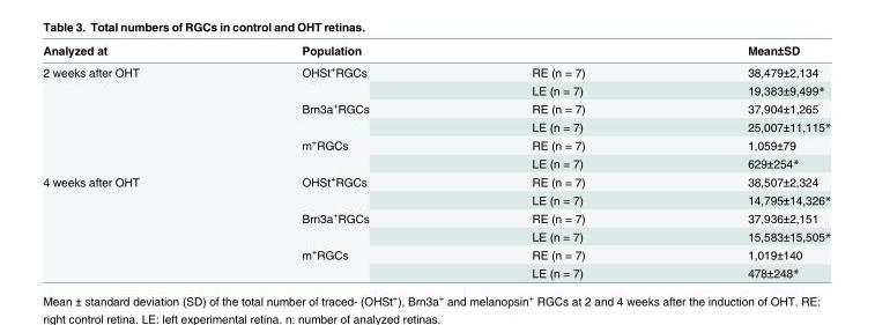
<table><thead><tr><td>Analyzed at</td><td>Population</td><td></td><td>Mean±SD</td></tr></thead><tbody><tr><td rowspan="6">2 weeks after OHT</td><td rowspan="2">OHSt<sup>+</sup>RGCs</td><td>RE (n = 7)</td><td>38,479±2,134</td></tr><tr><td>LE (n = 7)</td><td>19,383±9,499*</td></tr><tr><td rowspan="2">Brn3a<sup>+</sup>RGCs</td><td>RE (n = 7)</td><td>37,904±1,265</td></tr><tr><td>LE (n = 7)</td><td>25,007±11,115*</td></tr><tr><td rowspan="2">m<sup>+</sup>RGCs</td><td>RE (n = 7)</td><td>1,059±79</td></tr><tr><td>LE (n = 7)</td><td>629±254*</td></tr><tr><td rowspan="6">4 weeks after OHT</td><td rowspan="2">OHSt<sup>+</sup>RGCs</td><td>RE (n = 7)</td><td>38,507±2,324</td></tr><tr><td>LE (n = 7)</td><td>14,795±14,326*</td></tr><tr><td rowspan="2">Brn3a<sup>+</sup>RGCs</td><td>RE (n = 7)</td><td>37,936±2,151</td></tr><tr><td>LE (n = 7)</td><td>15,583±15,505*</td></tr><tr><td rowspan="2">m<sup>+</sup>RGCs</td><td>RE (n = 7)</td><td>1,019±140</td></tr><tr><td>LE (n = 7)</td><td>478±248*</td></tr></tbody></table>